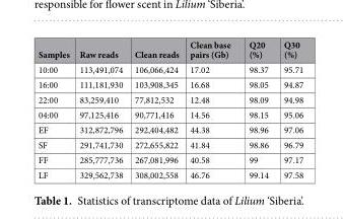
<table><thead><tr><td>Samples</td><td>Raw reads</td><td>Clean reads</td><td>Clean base pairs (Gb)</td><td>Q20 (%)</td><td>Q30 (%)</td></tr></thead><tbody><tr><td>10:00</td><td>113,491,074</td><td>106,066,424</td><td>17.02</td><td>98.37</td><td>95.71</td></tr><tr><td>16:00</td><td>111,181,930</td><td>103,908,345</td><td>16.68</td><td>98.05</td><td>94.87</td></tr><tr><td>22:00</td><td>83,259,410</td><td>77,812,532</td><td>12.48</td><td>98.09</td><td>94.98</td></tr><tr><td>04:00</td><td>97,125,416</td><td>90,771,416</td><td>14.56</td><td>98.15</td><td>95.06</td></tr><tr><td>EF</td><td>312,872,796</td><td>292,404,482</td><td>44.38</td><td>98.96</td><td>97.06</td></tr><tr><td>SF</td><td>291,741,730</td><td>272,655,822</td><td>41.84</td><td>98.86</td><td>96.79</td></tr><tr><td>FF</td><td>285,777,736</td><td>267,081,996</td><td>40.58</td><td>99</td><td>97.17</td></tr><tr><td>LF</td><td>329,562,738</td><td>308,002,558</td><td>46.76</td><td>99.14</td><td>97.58</td></tr></tbody></table>